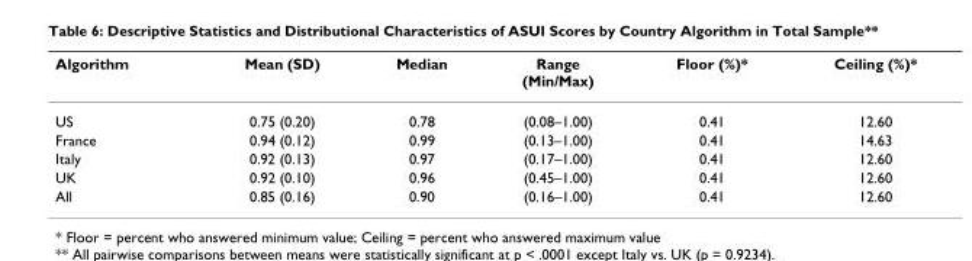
<table><thead><tr><td>Algorithm</td><td>Mean (SD)</td><td>Median</td><td>Range (Min/Max)</td><td>Floor (%)*</td><td>Ceiling (%)*</td></tr></thead><tbody><tr><td>US</td><td>0.75 (0.20)</td><td>0.78</td><td>(0.08–1.00)</td><td>0.41</td><td>12.60</td></tr><tr><td>France</td><td>0.94 (0.12)</td><td>0.99</td><td>(0.13–1.00)</td><td>0.41</td><td>14.63</td></tr><tr><td>Italy</td><td>0.92 (0.13)</td><td>0.97</td><td>(0.17–1.00)</td><td>0.41</td><td>12.60</td></tr><tr><td>UK</td><td>0.92 (0.10)</td><td>0.96</td><td>(0.45–1.00)</td><td>0.41</td><td>12.60</td></tr><tr><td>All</td><td>0.85 (0.16)</td><td>0.90</td><td>(0.16–1.00)</td><td>0.41</td><td>12.60</td></tr></tbody></table>